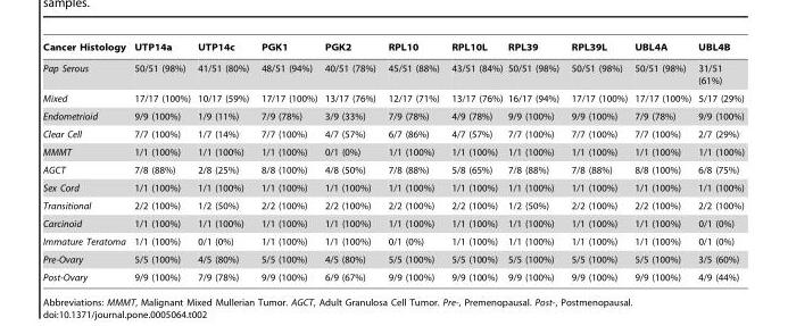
<table><thead><tr><td>Cancer Histology</td><td>UTP14a</td><td>UTP14c</td><td>PGK1</td><td>PGK2</td><td>RPL10</td><td>RPL10L</td><td>RPL39</td><td>RPL39L</td><td>UBL4A</td><td>UBL4B</td></tr></thead><tbody><tr><td>Pap Serous</td><td>50/51 (98%)</td><td>41/51 (80%)</td><td>48/51 (94%)</td><td>40/51 (78%)</td><td>45/51 (88%)</td><td>43/51 (84%)</td><td>50/51 (98%)</td><td>50/51 (98%)</td><td>50/51 (98%)</td><td>31/51 (61%)</td></tr><tr><td>Mixed</td><td>17/17 (100%)</td><td>10/17 (59%)</td><td>17/17 (100%)</td><td>13/17 (76%)</td><td>12/17 (71%)</td><td>13/17 (76%)</td><td>16/17 (94%)</td><td>17/17 (100%)</td><td>17/17 (100%)</td><td>5/17 (29%)</td></tr><tr><td>Endometrioid</td><td>9/9 (100%)</td><td>1/9 (11%)</td><td>7/9 (78%)</td><td>3/9 (33%)</td><td>7/9 (78%)</td><td>4/9 (78%)</td><td>9/9 (100%)</td><td>9/9 (100%)</td><td>7/9 (78%)</td><td>9/9 (100%)</td></tr><tr><td>Clear Cell</td><td>7/7 (100%)</td><td>1/7 (14%)</td><td>7/7 (100%)</td><td>4/7 (57%)</td><td>6/7 (86%)</td><td>4/7 (57%)</td><td>7/7 (100%)</td><td>7/7 (100%)</td><td>7/7 (100%)</td><td>2/7 (29%)</td></tr><tr><td>MMMT</td><td>1/1 (100%)</td><td>1/1 (100%)</td><td>1/1 (100%)</td><td>0/1 (0%)</td><td>1/1 (100%)</td><td>1/1 (100%)</td><td>1/1 (100%)</td><td>1/1 (100%)</td><td>1/1 (100%)</td><td>1/1 (100%)</td></tr><tr><td>AGCT</td><td>7/8 (88%)</td><td>2/8 (25%)</td><td>8/8 (100%)</td><td>4/8 (50%)</td><td>7/8 (88%)</td><td>5/8 (65%)</td><td>7/8 (88%)</td><td>7/8 (88%)</td><td>8/8 (100%)</td><td>6/8 (75%)</td></tr><tr><td>Sex Cord</td><td>1/1 (100%)</td><td>1/1 (100%)</td><td>1/1 (100%)</td><td>1/1 (100%)</td><td>1/1 (100%)</td><td>1/1 (100%)</td><td>1/1 (100%)</td><td>1/1 (100%)</td><td>1/1 (100%)</td><td>1/1 (100%)</td></tr><tr><td>Transitional</td><td>2/2 (100%)</td><td>1/2 (50%)</td><td>2/2 (100%)</td><td>2/2 (100%)</td><td>2/2 (100%)</td><td>2/2 (100%)</td><td>1/2 (50%)</td><td>2/2 (100%)</td><td>2/2 (100%)</td><td>2/2 (100%)</td></tr><tr><td>Carcinoid</td><td>1/1 (100%)</td><td>1/1 (100%)</td><td>1/1 (100%)</td><td>1/1 (100%)</td><td>1/1 (100%)</td><td>1/1 (100%)</td><td>1/1 (100%)</td><td>1/1 (100%)</td><td>1/1 (100%)</td><td>0/1 (0%)</td></tr><tr><td>Immature Teratoma</td><td>1/1 (100%)</td><td>0/1 (0%)</td><td>1/1 (100%)</td><td>1/1 (100%)</td><td>0/1 (0%)</td><td>1/1 (100%)</td><td>1/1 (100%)</td><td>1/1 (100%)</td><td>1/1 (100%)</td><td>0/1 (0%)</td></tr><tr><td>Pre-Ovary</td><td>5/5 (100%)</td><td>4/5 (80%)</td><td>5/5 (100%)</td><td>4/5 (80%)</td><td>5/5 (100%)</td><td>5/5 (100%)</td><td>5/5 (100%)</td><td>5/5 (100%)</td><td>5/5 (100%)</td><td>3/5 (60%)</td></tr><tr><td>Post-Ovary</td><td>9/9 (100%)</td><td>7/9 (78%)</td><td>9/9 (100%)</td><td>6/9 (67%)</td><td>9/9 (100%)</td><td>9/9 (100%)</td><td>9/9 (100%)</td><td>9/9 (100%)</td><td>9/9 (100%)</td><td>4/9 (44%)</td></tr></tbody></table>